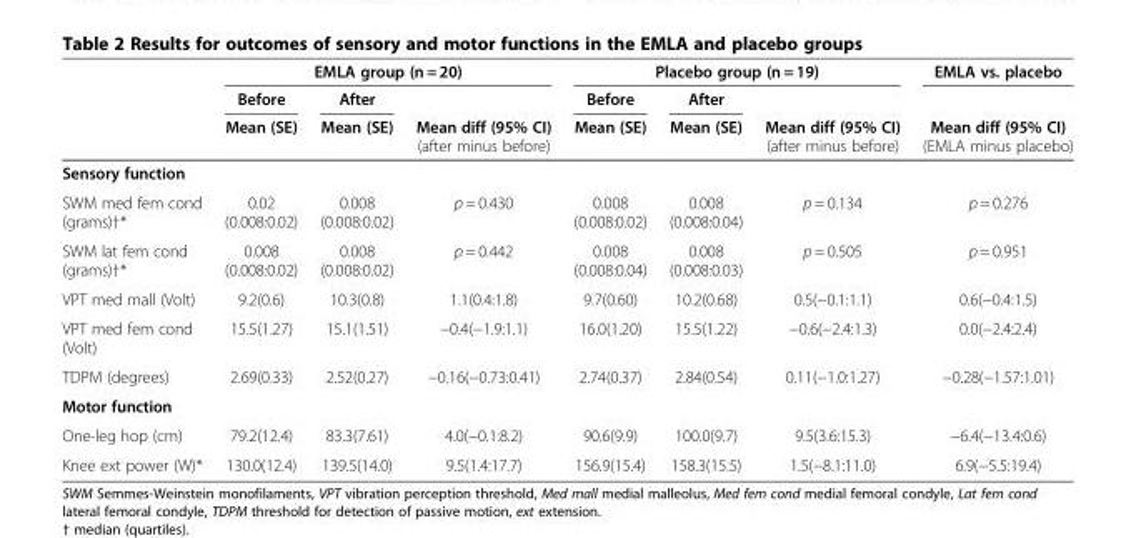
<table><thead><tr><td rowspan="3"></td><td colspan="3">EMLA group (n = 20)</td><td colspan="3">Placebo group (n = 19)</td><td rowspan="3">EMLA vs. placebo Mean diff (95% CI) (EMLA minus placebo)</td></tr><tr><td rowspan="2">Before Mean (SE)</td><td rowspan="2">After Mean (SE)</td><td rowspan="2">Mean diff (95% CI) (after minus before)</td><td rowspan="2">Before Mean (SE)</td><td rowspan="2">After Mean (SE)</td><td rowspan="2">Mean diff (95% CI) (after minus before)</td></tr><tr></tr></thead><tbody><tr><td colspan="8">Sensory function</td></tr><tr><td>SWM med fem cond (grams)†*</td><td>0.02 (0.008:0.02)</td><td>0.008 (0.008:0.02)</td><td>p = 0.430</td><td>0.008 (0.008:0.02)</td><td>0.008 (0.008:0.04)</td><td>p = 0.134</td><td>p = 0.276</td></tr><tr><td>SWM lat fem cond (grams)†*</td><td>0.008 (0.008:0.02)</td><td>0.008 (0.008:0.02)</td><td>p = 0.442</td><td>0.008 (0.008:0.04)</td><td>0.008 (0.008:0.03)</td><td>p = 0.505</td><td>p = 0.951</td></tr><tr><td>VPT med mall (Volt)</td><td>9.2(0.6)</td><td>10.3(0.8)</td><td>1.1(0.4:1.8)</td><td>9.7(0.60)</td><td>10.2(0.68)</td><td>0.5(−0.1:1.1)</td><td>0.6(−0.4:1.5)</td></tr><tr><td>VPT med fem cond (Volt)</td><td>15.5(1.27)</td><td>15.1(1.51)</td><td>−0.4(−1.9:1.1)</td><td>16.0(1.20)</td><td>15.5(1.22)</td><td>−0.6(−2.4:1.3)</td><td>0.0(−2.4:2.4)</td></tr><tr><td>TDPM (degrees)</td><td>2.69(0.33)</td><td>2.52(0.27)</td><td>−0.16(−0.73:0.41)</td><td>2.74(0.37)</td><td>2.84(0.54)</td><td>0.11(−1.0:1.27)</td><td>−0.28(−1.57:1.01)</td></tr><tr><td colspan="8">Motor function</td></tr><tr><td>One-leg hop (cm)</td><td>79.2(12.4)</td><td>83.3(7.61)</td><td>4.0(−0.1:8.2)</td><td>90.6(9.9)</td><td>100.0(9.7)</td><td>9.5(3.6:15.3)</td><td>−6.4(−13.4:0.6)</td></tr><tr><td>Knee ext power (W)*</td><td>130.0(12.4)</td><td>139.5(14.0)</td><td>9.5(1.4:17.7)</td><td>156.9(15.4)</td><td>158.3(15.5)</td><td>1.5(−8.1:11.0)</td><td>6.9(−5.5:19.4)</td></tr></tbody></table>